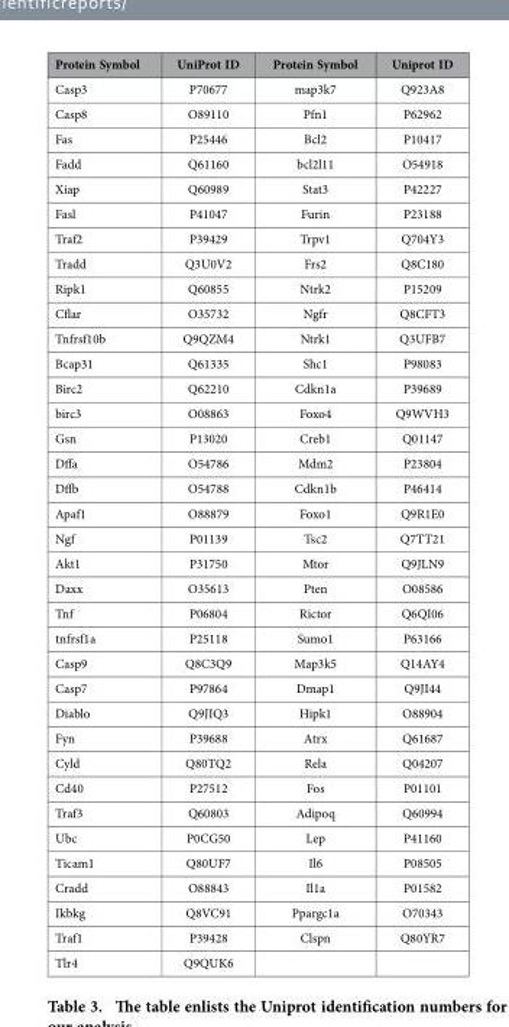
<table><thead><tr><td>Protein Symbol</td><td>UniProt ID</td><td>Protein Symbol</td><td>Uniprot ID</td></tr></thead><tbody><tr><td>Casp3</td><td>P70677</td><td>map3k7</td><td>Q923A8</td></tr><tr><td>Casp8</td><td>O89110</td><td>Pfn1</td><td>P62962</td></tr><tr><td>Fas</td><td>P25446</td><td>Bcl2</td><td>P10417</td></tr><tr><td>Fadd</td><td>Q61160</td><td>bcl2l11</td><td>O54918</td></tr><tr><td>Xiap</td><td>Q60989</td><td>Stat3</td><td>P42227</td></tr><tr><td>Fasl</td><td>P41047</td><td>Furin</td><td>P23188</td></tr><tr><td>Traf2</td><td>P39429</td><td>Trpv1</td><td>Q704Y3</td></tr><tr><td>Tradd</td><td>Q3U0V2</td><td>Frs2</td><td>Q8C180</td></tr><tr><td>Ripk1</td><td>Q60855</td><td>Ntrk2</td><td>P15209</td></tr><tr><td>Cflar</td><td>O35732</td><td>Ngfr</td><td>Q8CFT3</td></tr><tr><td>Tnfrsf10b</td><td>Q9QZM4</td><td>Ntrk1</td><td>Q3UFB7</td></tr><tr><td>Bcap31</td><td>Q61335</td><td>Shc1</td><td>P98083</td></tr><tr><td>Birc2</td><td>Q62210</td><td>Cdkn1a</td><td>P39689</td></tr><tr><td>birc3</td><td>O08863</td><td>Foxo4</td><td>Q9WVH3</td></tr><tr><td>Gsn</td><td>P13020</td><td>Creb1</td><td>Q01147</td></tr><tr><td>Dffa</td><td>O54786</td><td>Mdm2</td><td>P23804</td></tr><tr><td>Dffb</td><td>O54788</td><td>Cdkn1b</td><td>P46414</td></tr><tr><td>Apaf1</td><td>O88879</td><td>Foxo1</td><td>Q9R1E0</td></tr><tr><td>Ngf</td><td>P01139</td><td>Tsc2</td><td>Q7TT21</td></tr><tr><td>Akt1</td><td>P31750</td><td>Mtor</td><td>Q9JLN9</td></tr><tr><td>Daxx</td><td>O35613</td><td>Pten</td><td>O08586</td></tr><tr><td>Tnf</td><td>P06804</td><td>Rictor</td><td>Q6QI06</td></tr><tr><td>tnfrsf1a</td><td>P25118</td><td>Sumo1</td><td>P63166</td></tr><tr><td>Casp9</td><td>Q8C3Q9</td><td>Map3k5</td><td>Q14AY4</td></tr><tr><td>Casp7</td><td>P97864</td><td>Dmap1</td><td>Q9JI44</td></tr><tr><td>Diablo</td><td>Q9JIQ3</td><td>Hipk1</td><td>O88904</td></tr><tr><td>Fyn</td><td>P39688</td><td>Atrx</td><td>Q61687</td></tr><tr><td>Cyld</td><td>Q80TQ2</td><td>Rela</td><td>Q04207</td></tr><tr><td>Cd40</td><td>P27512</td><td>Fos</td><td>P01101</td></tr><tr><td>Traf3</td><td>Q60803</td><td>Adipoq</td><td>Q60994</td></tr><tr><td>Ubc</td><td>P0CG50</td><td>Lep</td><td>P41160</td></tr><tr><td>Ticam1</td><td>Q80UF7</td><td>Il6</td><td>P08505</td></tr><tr><td>Cradd</td><td>O88843</td><td>Il1a</td><td>P01582</td></tr><tr><td>Ikbkg</td><td>Q8VC91</td><td>Ppargc1a</td><td>O70343</td></tr><tr><td>Traf1</td><td>P39428</td><td>Clspn</td><td>Q80YR7</td></tr><tr><td>Tlr4</td><td>Q9QUK6</td><td></td><td></td></tr></tbody></table>